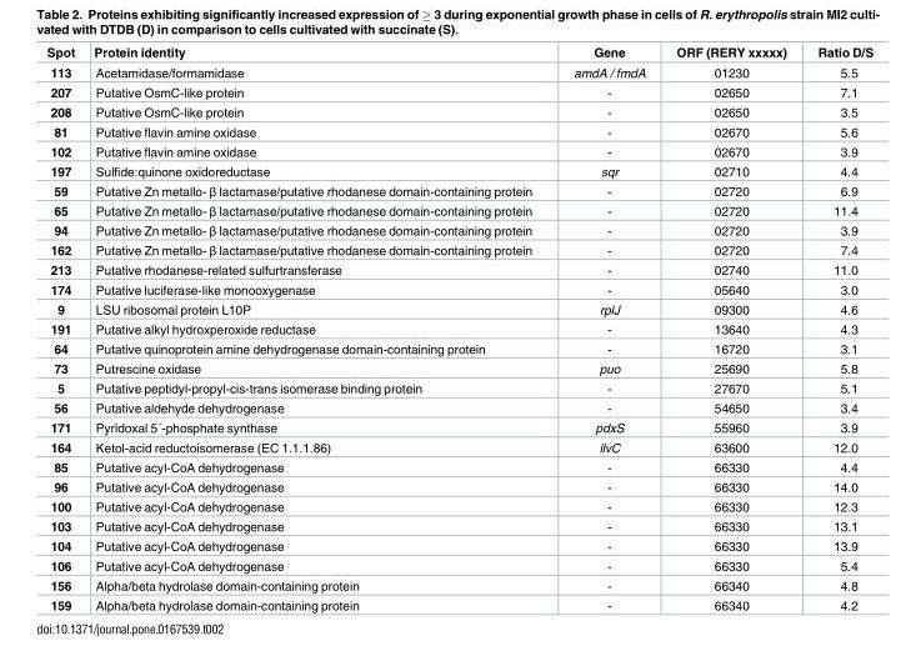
<table><thead><tr><td>Spot</td><td>Protein identity</td><td>Gene</td><td>ORF (RERY xxxxx)</td><td>Ratio D/S</td></tr></thead><tbody><tr><td>113</td><td>Acetamidase/formamidase</td><td>amdA / fmdA</td><td>01230</td><td>5.5</td></tr><tr><td>207</td><td>Putative OsmC-like protein</td><td>-</td><td>02650</td><td>7.1</td></tr><tr><td>208</td><td>Putative OsmC-like protein</td><td>-</td><td>02650</td><td>3.5</td></tr><tr><td>81</td><td>Putative flavin amine oxidase</td><td>-</td><td>02670</td><td>5.6</td></tr><tr><td>102</td><td>Putative flavin amine oxidase</td><td>-</td><td>02670</td><td>3.9</td></tr><tr><td>197</td><td>Sulfide:quinone oxidoreductase</td><td>sqr</td><td>02710</td><td>4.4</td></tr><tr><td>59</td><td>Putative Zn metallo- β lactamase/putative rhodanese domain-containing protein</td><td>-</td><td>02720</td><td>6.9</td></tr><tr><td>65</td><td>Putative Zn metallo- β lactamase/putative rhodanese domain-containing protein</td><td>-</td><td>02720</td><td>11.4</td></tr><tr><td>94</td><td>Putative Zn metallo- β lactamase/putative rhodanese domain-containing protein</td><td>-</td><td>02720</td><td>3.9</td></tr><tr><td>162</td><td>Putative Zn metallo- β lactamase/putative rhodanese domain-containing protein</td><td>-</td><td>02720</td><td>7.4</td></tr><tr><td>213</td><td>Putative rhodanese-related sulfurtransferase</td><td>-</td><td>02740</td><td>11.0</td></tr><tr><td>174</td><td>Putative luciferase-like monooxygenase</td><td>-</td><td>05640</td><td>3.0</td></tr><tr><td>9</td><td>LSU ribosomal protein L10P</td><td>rplJ</td><td>09300</td><td>4.6</td></tr><tr><td>191</td><td>Putative alkyl hydroxperoxide reductase</td><td>-</td><td>13640</td><td>4.3</td></tr><tr><td>64</td><td>Putative quinoprotein amine dehydrogenase domain-containing protein</td><td>-</td><td>16720</td><td>3.1</td></tr><tr><td>73</td><td>Putrescine oxidase</td><td>puo</td><td>25690</td><td>5.8</td></tr><tr><td>5</td><td>Putative peptidyl-propyl-cis-trans isomerase binding protein</td><td>-</td><td>27670</td><td>5.1</td></tr><tr><td>56</td><td>Putative aldehyde dehydrogenase</td><td>-</td><td>54650</td><td>3.4</td></tr><tr><td>171</td><td>Pyridoxal 5´-phosphate synthase</td><td>pdxS</td><td>55960</td><td>3.9</td></tr><tr><td>164</td><td>Ketol-acid reductoisomerase (EC 1.1.1.86)</td><td>ilvC</td><td>63600</td><td>12.0</td></tr><tr><td>85</td><td>Putative acyl-CoA dehydrogenase</td><td>-</td><td>66330</td><td>4.4</td></tr><tr><td>96</td><td>Putative acyl-CoA dehydrogenase</td><td>-</td><td>66330</td><td>14.0</td></tr><tr><td>100</td><td>Putative acyl-CoA dehydrogenase</td><td>-</td><td>66330</td><td>12.3</td></tr><tr><td>103</td><td>Putative acyl-CoA dehydrogenase</td><td>-</td><td>66330</td><td>13.1</td></tr><tr><td>104</td><td>Putative acyl-CoA dehydrogenase</td><td>-</td><td>66330</td><td>13.9</td></tr><tr><td>106</td><td>Putative acyl-CoA dehydrogenase</td><td>-</td><td>66330</td><td>5.4</td></tr><tr><td>156</td><td>Alpha/beta hydrolase domain-containing protein</td><td>-</td><td>66340</td><td>4.8</td></tr><tr><td>159</td><td>Alpha/beta hydrolase domain-containing protein</td><td>-</td><td>66340</td><td>4.2</td></tr></tbody></table>